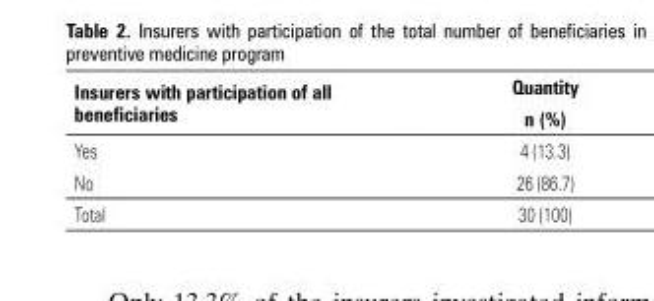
<table><thead><tr><td>insurers with participation of all beneficiaries</td><td>Quantity n (%)</td></tr></thead><tbody><tr><td>Yes</td><td>4 (13.3)</td></tr><tr><td>No</td><td>26 (86.7)</td></tr><tr><td>Total</td><td>30 (100)</td></tr></tbody></table>